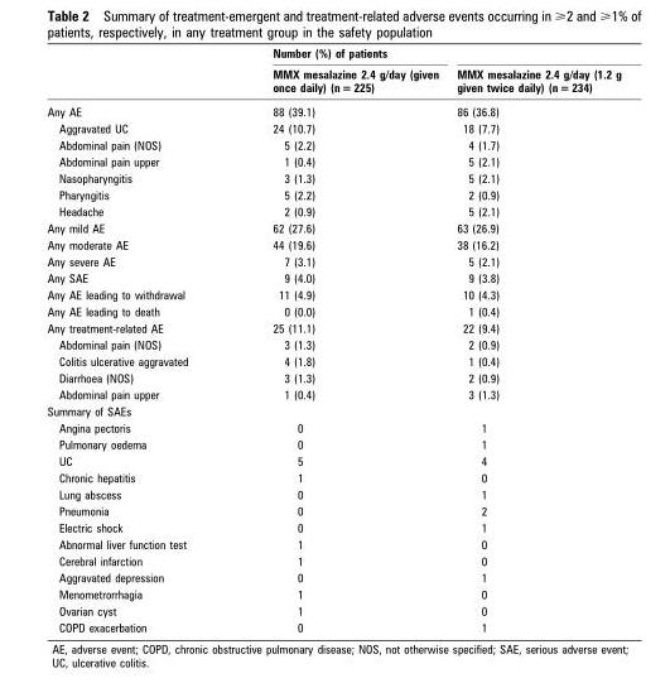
<table><thead><tr><td rowspan="2"></td><td rowspan="2">Number (%) of patients MMX mesalazine 2.4 g/day (given once daily) (n = 225)</td><td rowspan="2">MMX mesalazine 2.4 g/day (1.2 g given twice daily) (n = 234)</td></tr><tr></tr></thead><tbody><tr><td>Any AE</td><td>88 (39.1)</td><td>86 (36.8)</td></tr><tr><td>Aggravated UC</td><td>24 (10.7)</td><td>18 (7.7)</td></tr><tr><td>Abdominal pain (NOS)</td><td>5 (2.2)</td><td>4 (1.7)</td></tr><tr><td>Abdominal pain upper</td><td>1 (0.4)</td><td>5 (2.1)</td></tr><tr><td>Nasopharyngitis</td><td>3 (1.3)</td><td>5 (2.1)</td></tr><tr><td>Pharyngitis</td><td>5 (2.2)</td><td>2 (0.9)</td></tr><tr><td>Headache</td><td>2 (0.9)</td><td>5 (2.1)</td></tr><tr><td>Any mild AE</td><td>62 (27.6)</td><td>63 (26.9)</td></tr><tr><td>Any moderate AE</td><td>44 (19.6)</td><td>38 (16.2)</td></tr><tr><td>Any severe AE</td><td>7 (3.1)</td><td>5 (2.1)</td></tr><tr><td>Any SAE</td><td>9 (4.0)</td><td>9 (3.8)</td></tr><tr><td>Any AE leading to withdrawal</td><td>11 (4.9)</td><td>10 (4.3)</td></tr><tr><td>Any AE leading to death</td><td>0 (0.0)</td><td>1 (0.4)</td></tr><tr><td>Any treatment-related AE</td><td>25 (11.1)</td><td>22 (9.4)</td></tr><tr><td>Abdominal pain (NOS)</td><td>3 (1.3)</td><td>2 (0.9)</td></tr><tr><td>Colitis ulcerative aggravated</td><td>4 (1.8)</td><td>1 (0.4)</td></tr><tr><td>Diarrhoea (NOS)</td><td>3 (1.3)</td><td>2 (0.9)</td></tr><tr><td>Abdominal pain upper</td><td>1 (0.4)</td><td>3 (1.3)</td></tr><tr><td colspan="3">Summary of SAEs</td></tr><tr><td>Angina pectoris</td><td>0</td><td>1</td></tr><tr><td>Pulmonary oedema</td><td>0</td><td>1</td></tr><tr><td>UC</td><td>5</td><td>4</td></tr><tr><td>Chronic hepatitis</td><td>1</td><td>0</td></tr><tr><td>Lung abscess</td><td>0</td><td>1</td></tr><tr><td>Pneumonia</td><td>0</td><td>2</td></tr><tr><td>Electric shock</td><td>0</td><td>1</td></tr><tr><td>Abnormal liver function test</td><td>1</td><td>0</td></tr><tr><td>Cerebral infarction</td><td>1</td><td>0</td></tr><tr><td>Aggravated depression</td><td>0</td><td>1</td></tr><tr><td>Menometrorrhagia</td><td>1</td><td>0</td></tr><tr><td>Ovarian cyst</td><td>1</td><td>0</td></tr><tr><td>COPD exacerbation</td><td>0</td><td>1</td></tr></tbody></table>